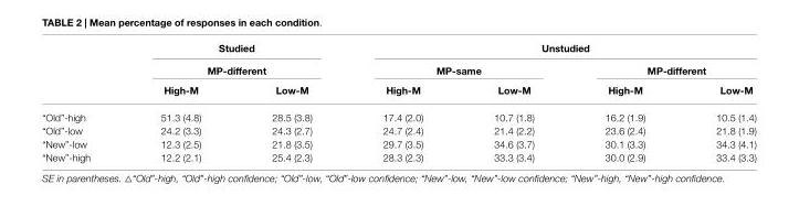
<table><thead><tr><td rowspan="3"></td><td rowspan="2" colspan="2">Studied MP-different</td><td colspan="4">Unstudied</td></tr><tr><td colspan="2">MP-same</td><td colspan="2">MP-different</td></tr><tr><td>High-M</td><td>Low-M</td><td>High-M</td><td>Low-M</td><td>High-M</td><td>Low-M</td></tr></thead><tbody><tr><td>“Old”-high</td><td>51.3 (4.8)</td><td>28.5 (3.8)</td><td>17.4 (2.0)</td><td>10.7 (1.8)</td><td>16.2 (1.9)</td><td>10.5 (1.4)</td></tr><tr><td>“Old”-low</td><td>24.2 (3.3)</td><td>24.3 (2.7)</td><td>24.7 (2.4)</td><td>21.4 (2.2)</td><td>23.6 (2.4)</td><td>21.8 (1.9)</td></tr><tr><td>“New”-low</td><td>12.3 (2.5)</td><td>21.8 (3.5)</td><td>29.7 (3.5)</td><td>34.6 (3.7)</td><td>30.1 (3.3)</td><td>34.3 (4.1)</td></tr><tr><td>“New”-high</td><td>12.2 (2.1)</td><td>25.4 (2.3)</td><td>28.3 (2.3)</td><td>33.3 (3.4)</td><td>30.0 (2.9)</td><td>33.4 (3.3)</td></tr></tbody></table>